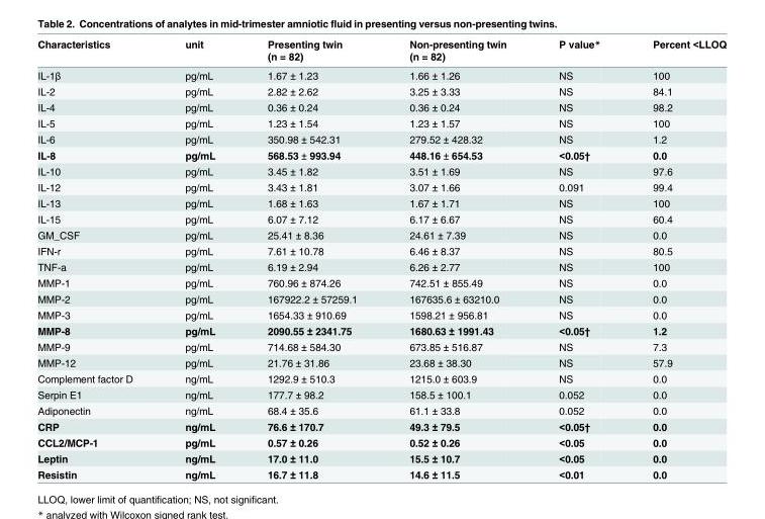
<table><thead><tr><td rowspan="2">Characteristics</td><td rowspan="2">unit</td><td rowspan="2">Presenting twin (n = 82)</td><td rowspan="2">Non-presenting twin (n = 82)</td><td rowspan="2">P value*</td><td rowspan="2">Percent &lt;LLOQ</td></tr><tr></tr></thead><tbody><tr><td>IL-1β</td><td>pg/mL</td><td>1.67 ± 1.23</td><td>1.66 ± 1.26</td><td>NS</td><td>100</td></tr><tr><td>IL-2</td><td>pg/mL</td><td>2.82 ± 2.62</td><td>3.25 ± 3.33</td><td>NS</td><td>84.1</td></tr><tr><td>IL-4</td><td>pg/mL</td><td>0.36 ± 0.24</td><td>0.36 ± 0.24</td><td>NS</td><td>98.2</td></tr><tr><td>IL-5</td><td>pg/mL</td><td>1.23 ± 1.54</td><td>1.23 ± 1.57</td><td>NS</td><td>100</td></tr><tr><td>IL-6</td><td>pg/mL</td><td>350.98 ± 542.31</td><td>279.52 ± 428.32</td><td>NS</td><td>1.2</td></tr><tr><td>IL-8</td><td>pg/mL</td><td>568.53 ± 993.94</td><td>448.16 ± 654.53</td><td>&lt;0.05†</td><td>0.0</td></tr><tr><td>IL-10</td><td>pg/mL</td><td>3.45 ± 1.82</td><td>3.51 ± 1.69</td><td>NS</td><td>97.6</td></tr><tr><td>IL-12</td><td>pg/mL</td><td>3.43 ± 1.81</td><td>3.07 ± 1.66</td><td>0.091</td><td>99.4</td></tr><tr><td>IL-13</td><td>pg/mL</td><td>1.68 ± 1.63</td><td>1.67 ± 1.71</td><td>NS</td><td>100</td></tr><tr><td>IL-15</td><td>pg/mL</td><td>6.07 ± 7.12</td><td>6.17 ± 6.67</td><td>NS</td><td>60.4</td></tr><tr><td>GM_CSF</td><td>pg/mL</td><td>25.41 ± 8.36</td><td>24.61 ± 7.39</td><td>NS</td><td>0.0</td></tr><tr><td>IFN-r</td><td>pg/mL</td><td>7.61 ± 10.78</td><td>6.46 ± 8.37</td><td>NS</td><td>80.5</td></tr><tr><td>TNF-a</td><td>pg/mL</td><td>6.19 ± 2.94</td><td>6.26 ± 2.77</td><td>NS</td><td>100</td></tr><tr><td>MMP-1</td><td>pg/mL</td><td>760.96 ± 874.26</td><td>742.51 ± 855.49</td><td>NS</td><td>0.0</td></tr><tr><td>MMP-2</td><td>pg/mL</td><td>167922.2 ± 57259.1</td><td>167635.6 ± 63210.0</td><td>NS</td><td>0.0</td></tr><tr><td>MMP-3</td><td>pg/mL</td><td>1654.33 ± 910.69</td><td>1598.21 ± 956.81</td><td>NS</td><td>0.0</td></tr><tr><td>MMP-8</td><td>pg/mL</td><td>2090.55 ± 2341.75</td><td>1680.63 ± 1991.43</td><td>&lt;0.05†</td><td>1.2</td></tr><tr><td>MMP-9</td><td>pg/mL</td><td>714.68 ± 584.30</td><td>673.85 ± 516.87</td><td>NS</td><td>7.3</td></tr><tr><td>MMP-12</td><td>pg/mL</td><td>21.76 ± 31.86</td><td>23.68 ± 38.30</td><td>NS</td><td>57.9</td></tr><tr><td>Complement factor D</td><td>ng/mL</td><td>1292.9 ± 510.3</td><td>1215.0 ± 603.9</td><td>NS</td><td>0.0</td></tr><tr><td>Serpin E1</td><td>ng/mL</td><td>177.7 ± 98.2</td><td>158.5 ± 100.1</td><td>0.052</td><td>0.0</td></tr><tr><td>Adiponectin</td><td>ng/mL</td><td>68.4 ± 35.6</td><td>61.1 ± 33.8</td><td>0.052</td><td>0.0</td></tr><tr><td>CRP</td><td>ng/mL</td><td>76.6 ± 170.7</td><td>49.3 ± 79.5</td><td>&lt;0.05†</td><td>0.0</td></tr><tr><td>CCL2/MCP-1</td><td>pg/mL</td><td>0.57 ± 0.26</td><td>0.52 ± 0.26</td><td>&lt;0.05</td><td>0.0</td></tr><tr><td>Leptin</td><td>ng/mL</td><td>17.0 ± 11.0</td><td>15.5 ± 10.7</td><td>&lt;0.05</td><td>0.0</td></tr><tr><td>Resistin</td><td>ng/mL</td><td>16.7 ± 11.8</td><td>14.6 ± 11.5</td><td>&lt;0.01</td><td>0.0</td></tr></tbody></table>